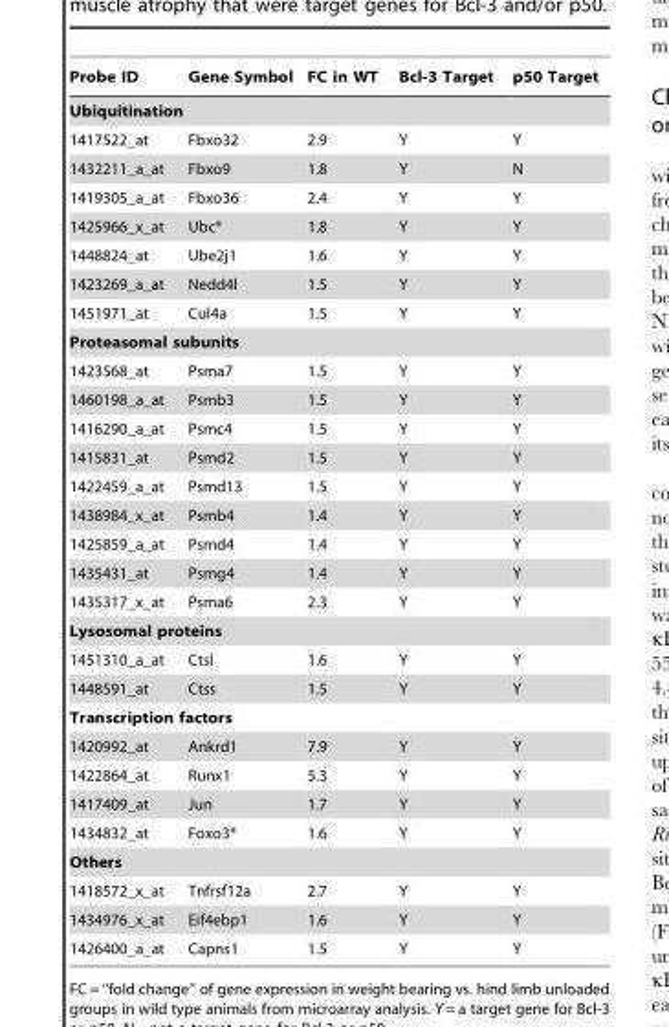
<table><thead><tr><td>Probe ID</td><td>Gene Symbol</td><td>FC in WT</td><td>Bcl-3 Target</td><td>p50 Target</td></tr></thead><tbody><tr><td colspan="5">Ubiquitination</td></tr><tr><td>1417522_at</td><td>Fbxo32</td><td>2.9</td><td>Y</td><td>Y</td></tr><tr><td>1432211_a_at</td><td>Fbxo9</td><td>1.8</td><td>Y</td><td>N</td></tr><tr><td>1419305_a_at</td><td>Fbxo36</td><td>2.4</td><td>Y</td><td>Y</td></tr><tr><td>1425966_x_at</td><td>Ubc*</td><td>1.8</td><td>Y</td><td>Y</td></tr><tr><td>1448824_at</td><td>Ube2j1</td><td>1.6</td><td>Y</td><td>Y</td></tr><tr><td>1423269_a_at</td><td>Nedd4l</td><td>1.5</td><td>Y</td><td>Y</td></tr><tr><td>1451971_at</td><td>Cul4a</td><td>1.5</td><td>Y</td><td>Y</td></tr><tr><td colspan="5">Proteasomal subunits</td></tr><tr><td>1423568_at</td><td>Psma7</td><td>1.5</td><td>Y</td><td>Y</td></tr><tr><td>1460198_a_at</td><td>Psmb3</td><td>1.5</td><td>Y</td><td>Y</td></tr><tr><td>1416290_a_at</td><td>Psmc4</td><td>1.5</td><td>Y</td><td>Y</td></tr><tr><td>1415831_at</td><td>Psmd2</td><td>1.5</td><td>Y</td><td>Y</td></tr><tr><td>1422459_a_at</td><td>Psmd13</td><td>1.5</td><td>Y</td><td>Y</td></tr><tr><td>1438984_x_at</td><td>Psmb4</td><td>1.4</td><td>Y</td><td>Y</td></tr><tr><td>1425859_a_at</td><td>Psmd4</td><td>1.4</td><td>Y</td><td>Y</td></tr><tr><td>1435431_at</td><td>Psmg4</td><td>1.4</td><td>Y</td><td>Y</td></tr><tr><td>1435317_x_at</td><td>Psma6</td><td>2.3</td><td>Y</td><td>Y</td></tr><tr><td colspan="5">Lysosomal proteins</td></tr><tr><td>1451310_a_at</td><td>Ctsl</td><td>1.6</td><td>Y</td><td>Y</td></tr><tr><td>1448591_at</td><td>Ctss</td><td>1.5</td><td>Y</td><td>Y</td></tr><tr><td colspan="5">Transcription factors</td></tr><tr><td>1420992_at</td><td>Ankrd1</td><td>7.9</td><td>Y</td><td>Y</td></tr><tr><td>1422864_at</td><td>Runx1</td><td>5.3</td><td>Y</td><td>Y</td></tr><tr><td>1417409_at</td><td>Jun</td><td>1.7</td><td>Y</td><td>Y</td></tr><tr><td>1434832_at</td><td>Foxo3*</td><td>1.6</td><td>Y</td><td>Y</td></tr><tr><td colspan="5">Others</td></tr><tr><td>1418572_x_at</td><td>Tnfrsf12a</td><td>2.7</td><td>Y</td><td>Y</td></tr><tr><td>1434976_x_at</td><td>Eif4ebp1</td><td>1.6</td><td>Y</td><td>Y</td></tr><tr><td>1426400_a_at</td><td>Capns1</td><td>1.5</td><td>Y</td><td>Y</td></tr></tbody></table>